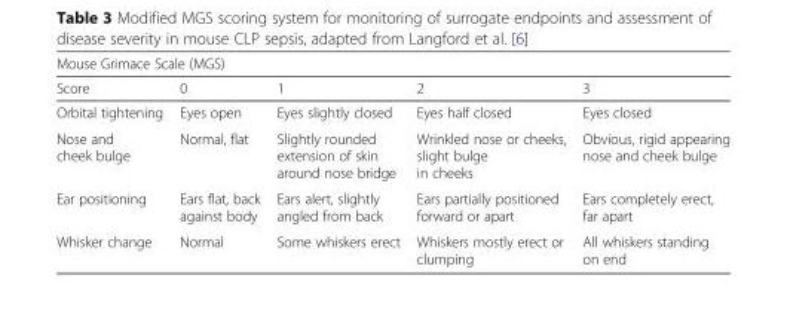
<table><thead><tr><td colspan="5">Mouse Grimace Scale (MGS)</td></tr><tr><td>Score</td><td>0</td><td>1</td><td>2</td><td>3</td></tr></thead><tbody><tr><td>Orbital tightening</td><td>Eyes open</td><td>Eyes slightly closed</td><td>Eyes half closed</td><td>Eyes closed</td></tr><tr><td>Nose and cheek bulge</td><td>Normal, flat</td><td>Slightly rounded extension of skin around nose bridge</td><td>Wrinkled nose or cheeks, slight bulge in cheeks</td><td>Obvious, rigid appearing nose and cheek bulge</td></tr><tr><td>Ear positioning</td><td>Ears flat, back against body</td><td>Ears alert, slightly angled from back</td><td>Ears partially positioned forward or apart</td><td>Ears completely erect, far apart</td></tr><tr><td>Whisker change</td><td>Normal</td><td>Some whiskers erect</td><td>Whiskers mostly erect or clumping</td><td>All whiskers standing on end</td></tr></tbody></table>